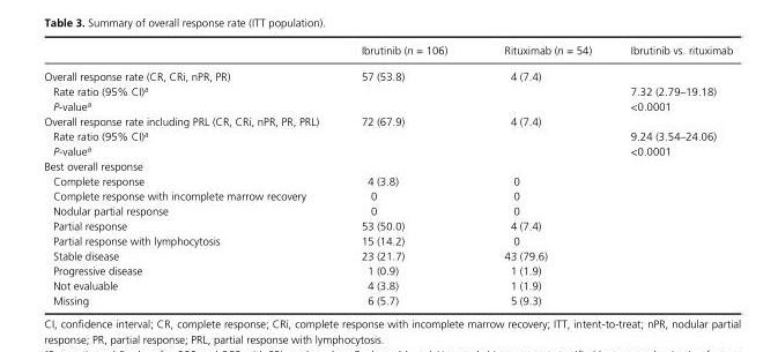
<table><thead><tr><td></td><td>Ibrutinib (n = 106)</td><td>Rituximab (n = 54)</td><td>Ibrutinib vs. rituximab</td></tr></thead><tbody><tr><td>Overall response rate (CR, CRi, nPR, PR)</td><td>57 (53.8)</td><td>4 (7.4)</td><td></td></tr><tr><td>Rate ratio (95% CI)<sup>a</sup></td><td></td><td></td><td>7.32 (2.79–19.18)</td></tr><tr><td>P- value<sup>a</sup></td><td></td><td></td><td>&lt;0.0001</td></tr><tr><td>Overall response rate including PRL (CR, CRi, nPR, PR, PRL)</td><td>72 (67.9)</td><td>4 (7.4)</td><td></td></tr><tr><td>Rate ratio (95% CI)<sup>a</sup></td><td></td><td></td><td>9.24 (3.54–24.06)</td></tr><tr><td>P- value<sup>a</sup></td><td></td><td></td><td>&lt;0.0001</td></tr><tr><td colspan="4">Best overall response</td></tr><tr><td>Complete response</td><td>4 (3.8)</td><td>0</td><td></td></tr><tr><td>Complete response with incomplete marrow recovery</td><td>0</td><td>0</td><td></td></tr><tr><td>Nodular partial response</td><td>0</td><td>0</td><td></td></tr><tr><td>Partial response</td><td>53 (50.0)</td><td>4 (7.4)</td><td></td></tr><tr><td>Partial response with lymphocytosis</td><td>15 (14.2)</td><td>0</td><td></td></tr><tr><td>Stable disease</td><td>23 (21.7)</td><td>43 (79.6)</td><td></td></tr><tr><td>Progressive disease</td><td>1 (0.9)</td><td>1 (1.9)</td><td></td></tr><tr><td>Not evaluable</td><td>4 (3.8)</td><td>1 (1.9)</td><td></td></tr><tr><td>Missing</td><td>6 (5.7)</td><td>5 (9.3)</td><td></td></tr></tbody></table>